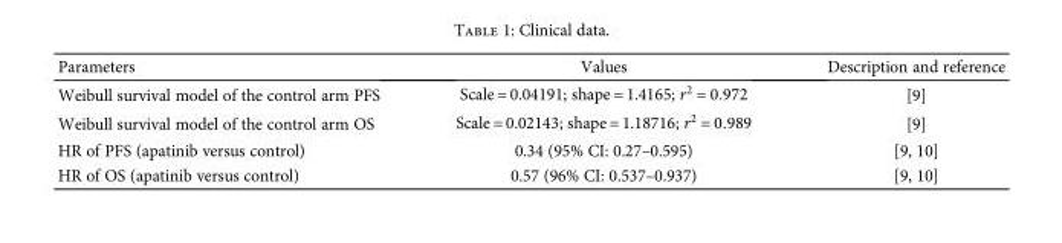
<table><thead><tr><td>Parameters</td><td>Values</td><td>Description and reference</td></tr></thead><tbody><tr><td>Weibull survival model of the control arm PFS</td><td>Scale = 0.04191; shape = 1.4165; r2 = 0 972</td><td>[9]</td></tr><tr><td>Weibull survival model of the control arm OS</td><td>Scale = 0.02143; shape = 1.18716; r2 = 0 989</td><td>[9]</td></tr><tr><td>HR of PFS (apatinib versus control)</td><td>0.34 (95% CI: 0.27–0.595)</td><td>[9, 10]</td></tr><tr><td>HR of OS (apatinib versus control)</td><td>0.57 (96% CI: 0.537–0.937)</td><td>[9, 10]</td></tr></tbody></table>